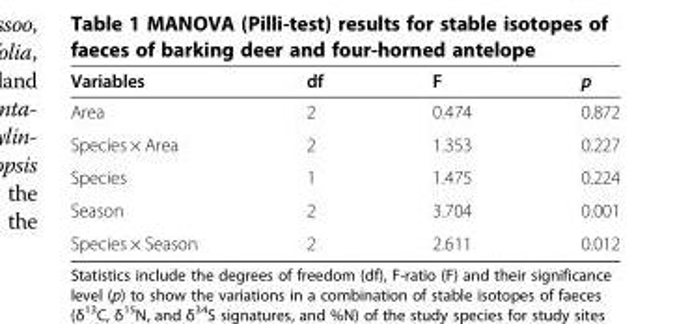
<table><thead><tr><td>Variables</td><td>df</td><td>F</td><td>p</td></tr></thead><tbody><tr><td>Area</td><td>2</td><td>0.474</td><td>0.872</td></tr><tr><td>Species × Area</td><td>2</td><td>1.353</td><td>0.227</td></tr><tr><td>Species</td><td>1</td><td>1.475</td><td>0.224</td></tr><tr><td>Season</td><td>2</td><td>3.704</td><td>0.001</td></tr><tr><td>Species × Season</td><td>2</td><td>2.611</td><td>0.012</td></tr></tbody></table>